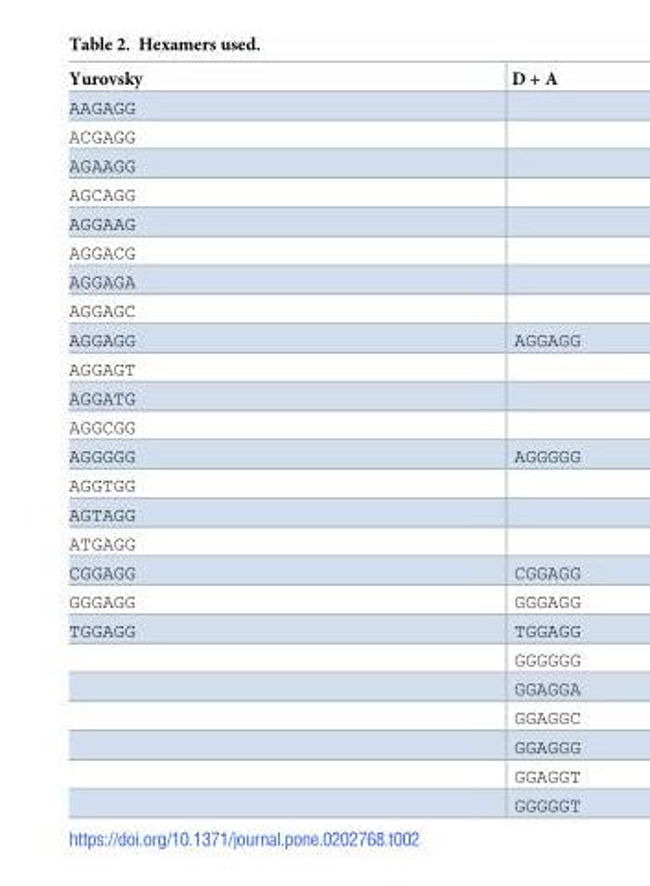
<table><thead><tr><td>Yurovsky</td><td>D + A</td></tr></thead><tbody><tr><td colspan="2">AAGAGG</td></tr><tr><td colspan="2">ACGAGG</td></tr><tr><td colspan="2">AGAAGG</td></tr><tr><td colspan="2">AGCAGG</td></tr><tr><td colspan="2">AGGAAG</td></tr><tr><td colspan="2">AGGACG</td></tr><tr><td colspan="2">AGGAGA</td></tr><tr><td colspan="2">AGGAGC</td></tr><tr><td>AGGAGG</td><td>AGGAGG</td></tr><tr><td colspan="2">AGGAGT</td></tr><tr><td colspan="2">AGGATG</td></tr><tr><td colspan="2">AGGCGG</td></tr><tr><td>AGGGGG</td><td>AGGGGG</td></tr><tr><td colspan="2">AGGTGG</td></tr><tr><td colspan="2">AGTAGG</td></tr><tr><td colspan="2">ATGAGG</td></tr><tr><td>CGGAGG</td><td>CGGAGG</td></tr><tr><td>GGGAGG</td><td>GGGAGG</td></tr><tr><td rowspan="7">TGGAGG</td><td>TGGAGG</td></tr><tr><td>GGGGGG</td></tr><tr><td>GGAGGA</td></tr><tr><td>GGAGGC</td></tr><tr><td>GGAGGG</td></tr><tr><td>GGAGGT</td></tr><tr><td>GGGGGT</td></tr></tbody></table>